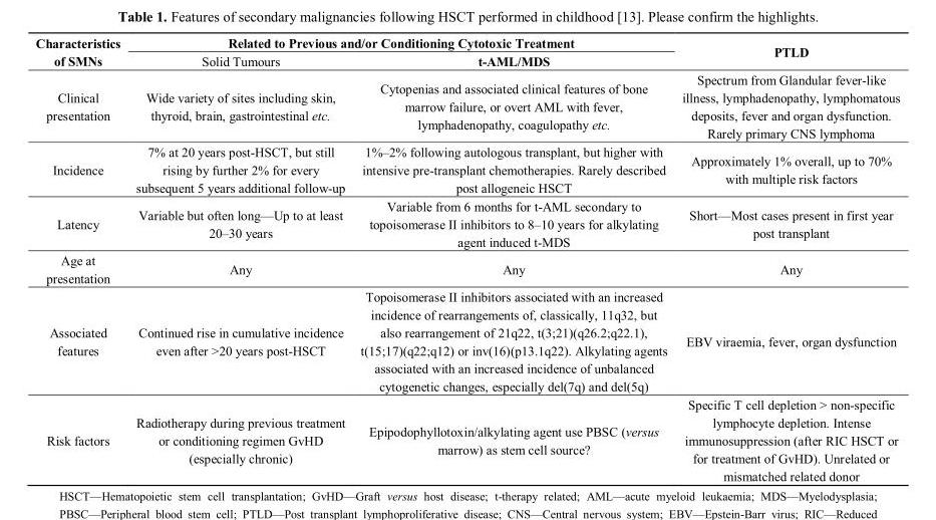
<table><thead><tr><td rowspan="2">Characteristics of SMNs</td><td colspan="2">Related to Previous and/or Conditioning Cytotoxic Treatment</td><td rowspan="2">PTLD</td></tr><tr><td>Solid Tumours</td><td>t-AML/MDS</td></tr></thead><tbody><tr><td>Clinical presentation</td><td>Wide variety of sites including skin, thyroid, brain, gastrointestinal etc.</td><td>Cytopenias and associated clinical features of bone marrow failure, or overt AML with fever, lymphadenopathy, coagulopathy etc.</td><td>Spectrum from Glandular fever-like illness, lymphadenopathy, lymphomatous deposits, fever and organ dysfunction. Rarely primary CNS lymphoma</td></tr><tr><td>Incidence</td><td>7% at 20 years post-HSCT, but still rising by further 2% for every subsequent 5 years additional follow-up</td><td>1%–2% following autologous transplant, but higher with intensive pre-transplant chemotherapies. Rarely described post allogeneic HSCT</td><td>Approximately 1% overall, up to 70% with multiple risk factors</td></tr><tr><td>Latency</td><td>Variable but often long—Up to at least 20–30 years</td><td>Variable from 6 months for t-AML secondary to topoisomerase II inhibitors to 8–10 years for alkylating agent induced t-MDS</td><td>Short—Most cases present in first year post transplant</td></tr><tr><td>Age at presentation</td><td>Any</td><td>Any</td><td>Any</td></tr><tr><td>Associated features</td><td>Continued rise in cumulative incidence even after &gt;20 years post-HSCT</td><td>Topoisomerase II inhibitors associated with an increased incidence of rearrangements of, classically, 11q32, but also rearrangement of 21q22, t(3;21)(q26.2;q22.1), t(15;17)(q22;q12) or inv(16)(p13.1q22). Alkylating agents associated with an increased incidence of unbalanced cytogenetic changes, especially del(7q) and del(5q)</td><td>EBV viraemia, fever, organ dysfunction</td></tr><tr><td>Risk factors</td><td>Radiotherapy during previous treatment or conditioning regimen GvHD (especially chronic)</td><td>Epipodophyllotoxin/alkylating agent use PBSC (versus marrow) as stem cell source?</td><td>Specific T cell depletion &gt; non-specific lymphocyte depletion. Intense immunosuppression (after RIC HSCT or for treatment of GvHD). Unrelated or mismatched related donor</td></tr></tbody></table>